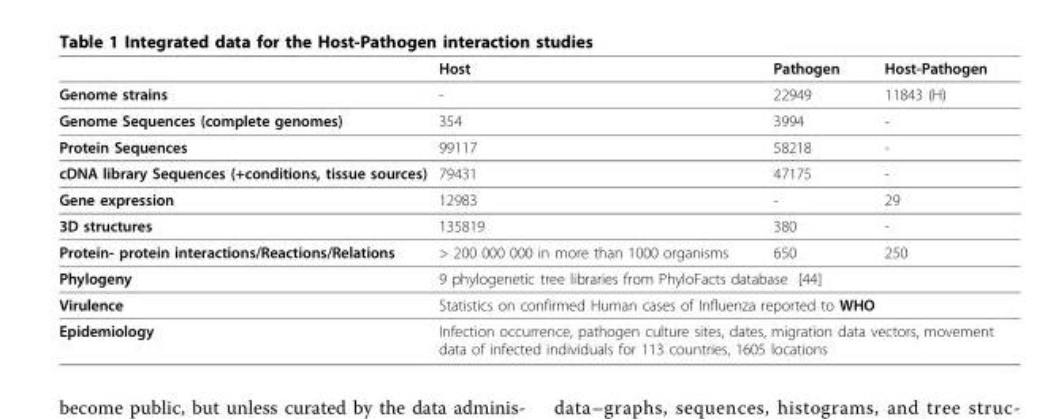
<table><thead><tr><td></td><td>Host</td><td>Pathogen</td><td>Host-Pathogen</td></tr></thead><tbody><tr><td>Genome strains</td><td>-</td><td>22949</td><td>11843 (H)</td></tr><tr><td>Genome Sequences (complete genomes)</td><td>354</td><td>3994</td><td>-</td></tr><tr><td>Protein Sequences</td><td>99117</td><td>58218</td><td>-</td></tr><tr><td>cDNA library Sequences (+conditions, tissue sources)</td><td>79431</td><td>47175</td><td>-</td></tr><tr><td>Gene expression</td><td>12983</td><td>-</td><td>29</td></tr><tr><td>3D structures</td><td>135819</td><td>380</td><td>-</td></tr><tr><td>Protein- protein interactions/Reactions/Relations</td><td>&gt; 200 000 000 in more than 1000 organisms</td><td>650</td><td>250</td></tr><tr><td>Phylogeny</td><td colspan="3">9 phylogenetic tree libraries from PhyloFacts database [44]</td></tr><tr><td>Virulence</td><td colspan="3">Statistics on confirmed Human cases of Influenza reported to WHO</td></tr><tr><td>Epidemiology</td><td colspan="3">Infection occurrence, pathogen culture sites, dates, migration data vectors, movement data of infected individuals for 113 countries, 1605 locations</td></tr></tbody></table>